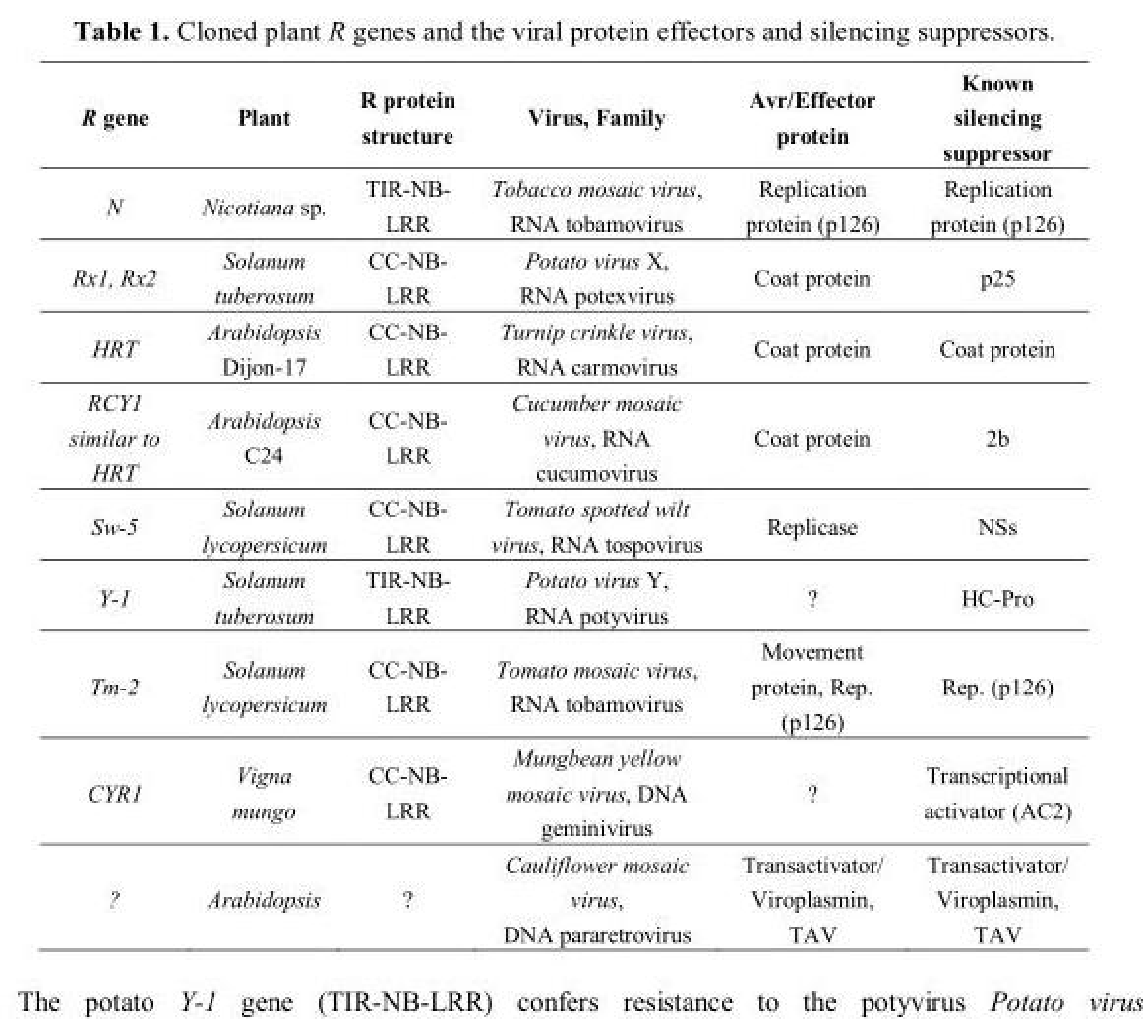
<table><thead><tr><td>R gene</td><td>Plant</td><td>R protein structure</td><td>Virus, Family</td><td>Avr/Effector protein</td><td>Known silencing suppressor</td></tr></thead><tbody><tr><td>N</td><td>Nicotiana sp.</td><td>TIR-NB- LRR</td><td>Tobacco mosaic virus, RNA tobamovirus</td><td>Replication protein (p126)</td><td>Replication protein (p126)</td></tr><tr><td>Rx1, Rx2</td><td>Solanum tuberosum</td><td>CC-NB- LRR</td><td>Potato virus X, RNA potexvirus</td><td>Coat protein</td><td>p25</td></tr><tr><td>HRT</td><td>Arabidopsis Dijon-17</td><td>CC-NB- LRR</td><td>Turnip crinkle virus, RNA carmovirus</td><td>Coat protein</td><td>Coat protein</td></tr><tr><td>RCY1 similar to HRT</td><td>Arabidopsis C24</td><td>CC-NB- LRR</td><td>Cucumber mosaic virus, RNA cucumovirus</td><td>Coat protein</td><td>2b</td></tr><tr><td>Sw-5</td><td>Solanum lycopersicum</td><td>CC-NB- LRR</td><td>Tomato spotted wilt virus, RNA tospovirus</td><td>Replicase</td><td>NSs</td></tr><tr><td>Y-1</td><td>Solanum tuberosum</td><td>TIR-NB- LRR</td><td>Potato virus Y, RNA potyvirus</td><td>?</td><td>HC-Pro</td></tr><tr><td>Tm-2</td><td>Solanum lycopersicum</td><td>CC-NB- LRR</td><td>Tomato mosaic virus, RNA tobamovirus</td><td>Movement protein, Rep. (p126)</td><td>Rep. (p126)</td></tr><tr><td>CYR1</td><td>Vigna mungo</td><td>CC-NB- LRR</td><td>Mungbean yellow mosaic virus, DNA geminivirus</td><td>?</td><td>Transcriptional activator (AC2)</td></tr><tr><td>?</td><td>Arabidopsis</td><td>?</td><td>Cauliflower mosaic virus, DNA pararetrovirus</td><td>Transactivator/ Viroplasmin, TAV</td><td>Transactivator/ Viroplasmin, TAV</td></tr></tbody></table>